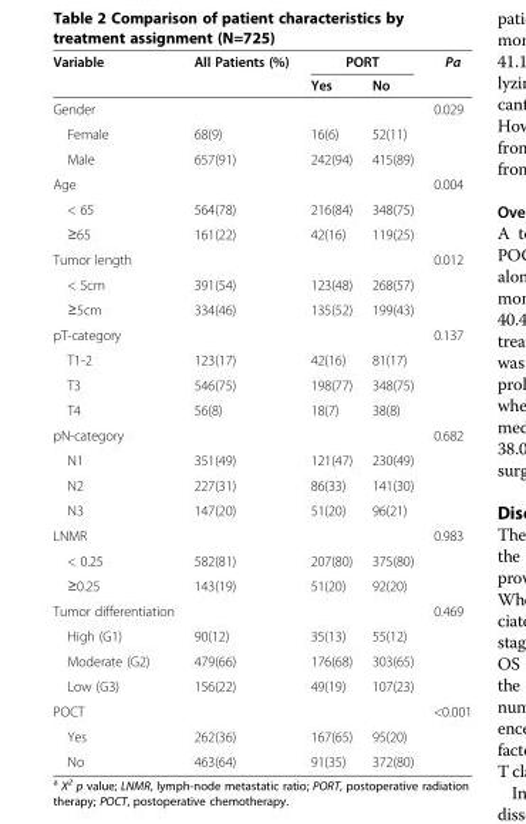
<table><thead><tr><td rowspan="2">Variable</td><td rowspan="2">All Patients (%)</td><td colspan="2">PORT</td><td rowspan="2">Pa</td></tr><tr><td>Yes</td><td>No</td></tr></thead><tbody><tr><td>Gender</td><td></td><td></td><td></td><td>0.029</td></tr><tr><td>Female</td><td>68(9)</td><td>16(6)</td><td>52(11)</td><td></td></tr><tr><td>Male</td><td>657(91)</td><td>242(94)</td><td>415(89)</td><td></td></tr><tr><td>Age</td><td></td><td></td><td></td><td>0.004</td></tr><tr><td>&lt; 65</td><td>564(78)</td><td>216(84)</td><td>348(75)</td><td></td></tr><tr><td>≥65</td><td>161(22)</td><td>42(16)</td><td>119(25)</td><td></td></tr><tr><td>Tumor length</td><td></td><td></td><td></td><td>0.012</td></tr><tr><td>&lt; 5cm</td><td>391(54)</td><td>123(48)</td><td>268(57)</td><td></td></tr><tr><td>≥5cm</td><td>334(46)</td><td>135(52)</td><td>199(43)</td><td></td></tr><tr><td>pT-category</td><td></td><td></td><td></td><td>0.137</td></tr><tr><td>T1-2</td><td>123(17)</td><td>42(16)</td><td>81(17)</td><td></td></tr><tr><td>T3</td><td>546(75)</td><td>198(77)</td><td>348(75)</td><td></td></tr><tr><td>T4</td><td>56(8)</td><td>18(7)</td><td>38(8)</td><td></td></tr><tr><td>pN-category</td><td></td><td></td><td></td><td>0.682</td></tr><tr><td>N1</td><td>351(49)</td><td>121(47)</td><td>230(49)</td><td></td></tr><tr><td>N2</td><td>227(31)</td><td>86(33)</td><td>141(30)</td><td></td></tr><tr><td>N3</td><td>147(20)</td><td>51(20)</td><td>96(21)</td><td></td></tr><tr><td>LNMR</td><td></td><td></td><td></td><td>0.983</td></tr><tr><td>&lt; 0.25</td><td>582(81)</td><td>207(80)</td><td>375(80)</td><td></td></tr><tr><td>≥0.25</td><td>143(19)</td><td>51(20)</td><td>92(20)</td><td></td></tr><tr><td>Tumor differentiation</td><td></td><td></td><td></td><td>0.469</td></tr><tr><td>High (G1)</td><td>90(12)</td><td>35(13)</td><td>55(12)</td><td></td></tr><tr><td>Moderate (G2)</td><td>479(66)</td><td>176(68)</td><td>303(65)</td><td></td></tr><tr><td>Low (G3)</td><td>156(22)</td><td>49(19)</td><td>107(23)</td><td></td></tr><tr><td>POCT</td><td></td><td></td><td></td><td>&lt;0.001</td></tr><tr><td>Yes</td><td>262(36)</td><td>167(65)</td><td>95(20)</td><td></td></tr><tr><td>No</td><td>463(64)</td><td>91(35)</td><td>372(80)</td><td></td></tr></tbody></table>